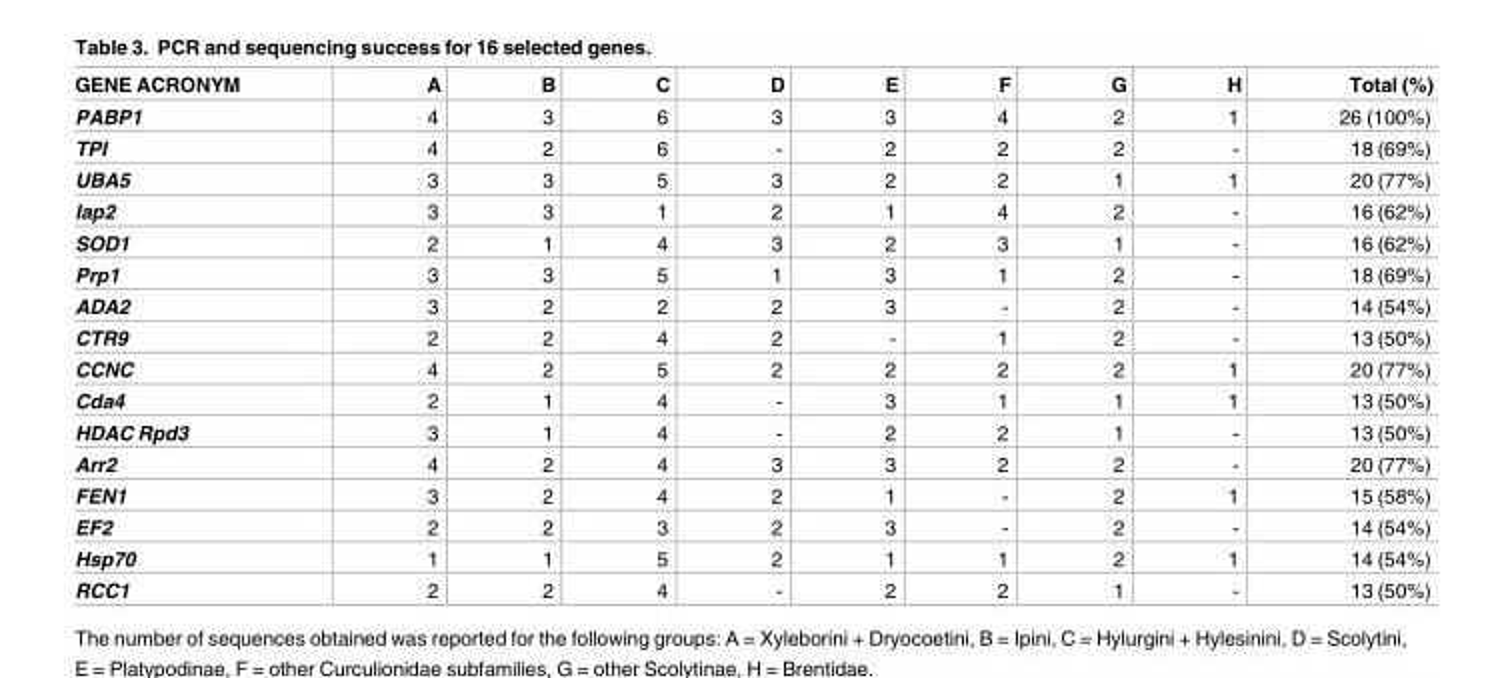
<table><thead><tr><td>GENE ACRONYM</td><td>A</td><td>B</td><td>C</td><td>D</td><td>E</td><td>F</td><td>G</td><td>H</td><td>Total (%)</td></tr></thead><tbody><tr><td>PABP1</td><td>4</td><td>3</td><td>6</td><td>3</td><td>3</td><td>4</td><td>2</td><td>1</td><td>26 (100%)</td></tr><tr><td>TPI</td><td>4</td><td>2</td><td>6</td><td>-</td><td>2</td><td>2</td><td>2</td><td>-</td><td>18 (69%)</td></tr><tr><td>UBA5</td><td>3</td><td>3</td><td>5</td><td>3</td><td>2</td><td>2</td><td>1</td><td>1</td><td>20 (77%)</td></tr><tr><td>Iap2</td><td>3</td><td>3</td><td>1</td><td>2</td><td>1</td><td>4</td><td>2</td><td>-</td><td>16 (62%)</td></tr><tr><td>SOD1</td><td>2</td><td>1</td><td>4</td><td>3</td><td>2</td><td>3</td><td>1</td><td>-</td><td>16 (62%)</td></tr><tr><td>Prp1</td><td>3</td><td>3</td><td>5</td><td>1</td><td>3</td><td>1</td><td>2</td><td>-</td><td>18 (69%)</td></tr><tr><td>ADA2</td><td>3</td><td>2</td><td>2</td><td>2</td><td>3</td><td>-</td><td>2</td><td>-</td><td>14 (54%)</td></tr><tr><td>CTR9</td><td>2</td><td>2</td><td>4</td><td>2</td><td>-</td><td>1</td><td>2</td><td>-</td><td>13 (50%)</td></tr><tr><td>CCNC</td><td>4</td><td>2</td><td>5</td><td>2</td><td>2</td><td>2</td><td>2</td><td>1</td><td>20 (77%)</td></tr><tr><td>Cda4</td><td>2</td><td>1</td><td>4</td><td>-</td><td>3</td><td>1</td><td>1</td><td>1</td><td>13 (50%)</td></tr><tr><td>HDAC Rpd3</td><td>3</td><td>1</td><td>4</td><td>-</td><td>2</td><td>2</td><td>1</td><td>-</td><td>13 (50%)</td></tr><tr><td>Arr2</td><td>4</td><td>2</td><td>4</td><td>3</td><td>3</td><td>2</td><td>2</td><td>-</td><td>20 (77%)</td></tr><tr><td>FEN1</td><td>3</td><td>2</td><td>4</td><td>2</td><td>1</td><td>-</td><td>2</td><td>1</td><td>15 (58%)</td></tr><tr><td>EF2</td><td>2</td><td>2</td><td>3</td><td>2</td><td>3</td><td>-</td><td>2</td><td>-</td><td>14 (54%)</td></tr><tr><td>Hsp70</td><td>1</td><td>1</td><td>5</td><td>2</td><td>1</td><td>1</td><td>2</td><td>1</td><td>14 (54%)</td></tr><tr><td>RCC1</td><td>2</td><td>2</td><td>4</td><td>-</td><td>2</td><td>2</td><td>1</td><td>-</td><td>13 (50%)</td></tr></tbody></table>